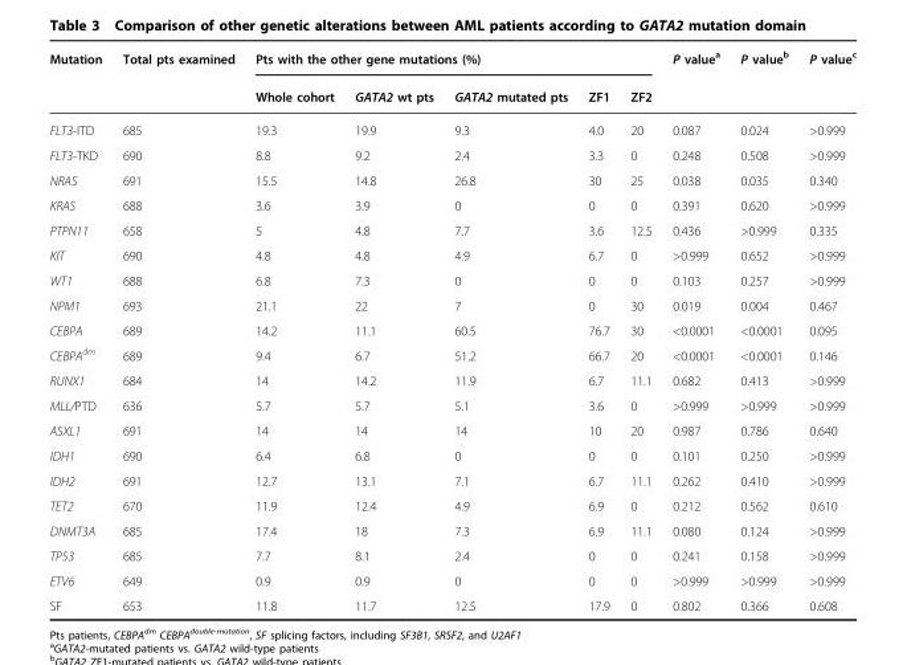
<table><thead><tr><td rowspan="2">Mutation</td><td rowspan="2">Total pts examined</td><td colspan="5">Pts with the other gene mutations (%)</td><td rowspan="2">P value<sup>a</sup></td><td rowspan="2">P value<sup>b</sup></td><td rowspan="2">P value<sup>c</sup></td></tr><tr><td>Whole cohort</td><td>GATA2 wt pts</td><td>GATA2 mutated pts</td><td>ZF1</td><td>ZF2</td></tr></thead><tbody><tr><td>FLT3-ITD</td><td>685</td><td>19.3</td><td>19.9</td><td>9.3</td><td>4.0</td><td>20</td><td>0.087</td><td>0.024</td><td>&gt;0.999</td></tr><tr><td>FLT3-TKD</td><td>690</td><td>8.8</td><td>9.2</td><td>2.4</td><td>3.3</td><td>0</td><td>0.248</td><td>0.508</td><td>&gt;0.999</td></tr><tr><td>NRAS</td><td>691</td><td>15.5</td><td>14.8</td><td>26.8</td><td>30</td><td>25</td><td>0.038</td><td>0.035</td><td>0.340</td></tr><tr><td>KRAS</td><td>688</td><td>3.6</td><td>3.9</td><td>0</td><td>0</td><td>0</td><td>0.391</td><td>0.620</td><td>&gt;0.999</td></tr><tr><td>PTPN11</td><td>658</td><td>5</td><td>4.8</td><td>7.7</td><td>3.6</td><td>12.5</td><td>0.436</td><td>&gt;0.999</td><td>0.335</td></tr><tr><td>KIT</td><td>690</td><td>4.8</td><td>4.8</td><td>4.9</td><td>6.7</td><td>0</td><td>&gt;0.999</td><td>0.652</td><td>&gt;0.999</td></tr><tr><td>WT1</td><td>688</td><td>6.8</td><td>7.3</td><td>0</td><td>0</td><td>0</td><td>0.103</td><td>0.257</td><td>&gt;0.999</td></tr><tr><td>NPM1</td><td>693</td><td>21.1</td><td>22</td><td>7</td><td>0</td><td>30</td><td>0.019</td><td>0.004</td><td>0.467</td></tr><tr><td>CEBPA</td><td>689</td><td>14.2</td><td>11.1</td><td>60.5</td><td>76.7</td><td>30</td><td>&lt;0.0001</td><td>&lt;0.0001</td><td>0.095</td></tr><tr><td>CEBPA<sup>dm</sup></td><td>689</td><td>9.4</td><td>6.7</td><td>51.2</td><td>66.7</td><td>20</td><td>&lt;0.0001</td><td>&lt;0.0001</td><td>0.146</td></tr><tr><td>RUNX1</td><td>684</td><td>14</td><td>14.2</td><td>11.9</td><td>6.7</td><td>11.1</td><td>0.682</td><td>0.413</td><td>&gt;0.999</td></tr><tr><td>MLL/PTD</td><td>636</td><td>5.7</td><td>5.7</td><td>5.1</td><td>3.6</td><td>0</td><td>&gt;0.999</td><td>&gt;0.999</td><td>&gt;0.999</td></tr><tr><td>ASXL1</td><td>691</td><td>14</td><td>14</td><td>14</td><td>10</td><td>20</td><td>0.987</td><td>0.786</td><td>0.640</td></tr><tr><td>IDH1</td><td>690</td><td>6.4</td><td>6.8</td><td>0</td><td>0</td><td>0</td><td>0.101</td><td>0.250</td><td>&gt;0.999</td></tr><tr><td>IDH2</td><td>691</td><td>12.7</td><td>13.1</td><td>7.1</td><td>6.7</td><td>11.1</td><td>0.262</td><td>0.410</td><td>&gt;0.999</td></tr><tr><td>TET2</td><td>670</td><td>11.9</td><td>12.4</td><td>4.9</td><td>6.9</td><td>0</td><td>0.212</td><td>0.562</td><td>0.610</td></tr><tr><td>DNMT3A</td><td>685</td><td>17.4</td><td>18</td><td>7.3</td><td>6.9</td><td>11.1</td><td>0.080</td><td>0.124</td><td>&gt;0.999</td></tr><tr><td>TP53</td><td>685</td><td>7.7</td><td>8.1</td><td>2.4</td><td>0</td><td>0</td><td>0.241</td><td>0.158</td><td>&gt;0.999</td></tr><tr><td>ETV6</td><td>649</td><td>0.9</td><td>0.9</td><td>0</td><td>0</td><td>0</td><td>&gt;0.999</td><td>&gt;0.999</td><td>&gt;0.999</td></tr><tr><td>SF</td><td>653</td><td>11.8</td><td>11.7</td><td>12.5</td><td>17.9</td><td>0</td><td>0.802</td><td>0.366</td><td>0.608</td></tr></tbody></table>